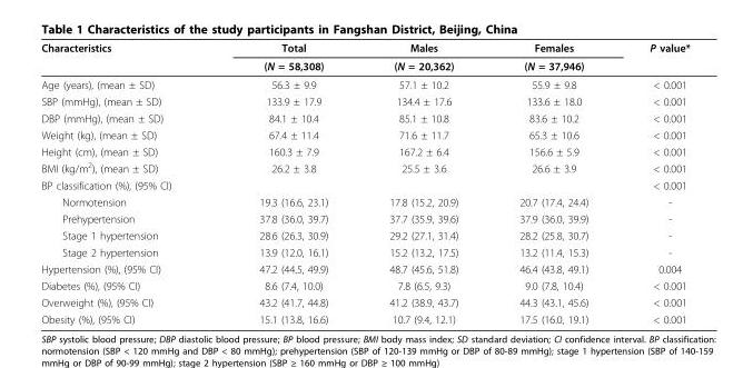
<table><thead><tr><td rowspan="2">Characteristics</td><td rowspan="2">Total (N = 58,308)</td><td rowspan="2">Males (N = 20,362)</td><td rowspan="2">Females (N = 37,946)</td><td rowspan="2">P value*</td></tr><tr></tr></thead><tbody><tr><td>Age (years), (mean ± SD)</td><td>56.3 ± 9.9</td><td>57.1 ± 10.2</td><td>55.9 ± 9.8</td><td>&lt; 0.001</td></tr><tr><td>SBP (mmHg), (mean ± SD)</td><td>133.9 ± 17.9</td><td>134.4 ± 17.6</td><td>133.6 ± 18.0</td><td>&lt; 0.001</td></tr><tr><td>DBP (mmHg), (mean ± SD)</td><td>84.1 ± 10.4</td><td>85.1 ± 10.8</td><td>83.6 ± 10.2</td><td>&lt; 0.001</td></tr><tr><td>Weight (kg), (mean ± SD)</td><td>67.4 ± 11.4</td><td>71.6 ± 11.7</td><td>65.3 ± 10.6</td><td>&lt; 0.001</td></tr><tr><td>Height (cm), (mean ± SD)</td><td>160.3 ± 7.9</td><td>167.2 ± 6.4</td><td>156.6 ± 5.9</td><td>&lt; 0.001</td></tr><tr><td>BMI (kg/m<sup>2</sup>), (mean ± SD)</td><td>26.2 ± 3.8</td><td>25.5 ± 3.6</td><td>26.6 ± 3.9</td><td>&lt; 0.001</td></tr><tr><td>BP classification (%), (95% CI)</td><td></td><td></td><td></td><td>&lt; 0.001</td></tr><tr><td>Normotension</td><td>19.3 (16.6, 23.1)</td><td>17.8 (15.2, 20.9)</td><td>20.7 (17.4, 24.4)</td><td>-</td></tr><tr><td>Prehypertension</td><td>37.8 (36.0, 39.7)</td><td>37.7 (35.9, 39.6)</td><td>37.9 (36.0, 39.9)</td><td>-</td></tr><tr><td>Stage 1 hypertension</td><td>28.6 (26.3, 30.9)</td><td>29.2 (27.1, 31.4)</td><td>28.2 (25.8, 30.7)</td><td>-</td></tr><tr><td>Stage 2 hypertension</td><td>13.9 (12.0, 16.1)</td><td>15.2 (13.2, 17.5)</td><td>13.2 (11.4, 15.3)</td><td>-</td></tr><tr><td>Hypertension (%), (95% CI)</td><td>47.2 (44.5, 49.9)</td><td>48.7 (45.6, 51.8)</td><td>46.4 (43.8, 49.1)</td><td>0.004</td></tr><tr><td>Diabetes (%), (95% CI)</td><td>8.6 (7.4, 10.0)</td><td>7.8 (6.5, 9.3)</td><td>9.0 (7.8, 10.4)</td><td>&lt; 0.001</td></tr><tr><td>Overweight (%), (95% CI)</td><td>43.2 (41.7, 44.8)</td><td>41.2 (38.9, 43.7)</td><td>44.3 (43.1, 45.6)</td><td>&lt; 0.001</td></tr><tr><td>Obesity (%), (95% CI)</td><td>15.1 (13.8, 16.6)</td><td>10.7 (9.4, 12.1)</td><td>17.5 (16.0, 19.1)</td><td>&lt; 0.001</td></tr></tbody></table>